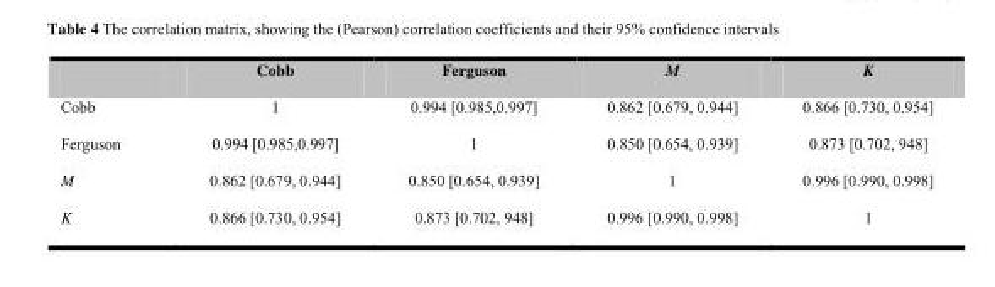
<table><thead><tr><td></td><td>Cobb</td><td>Ferguson</td><td>M</td><td>K</td></tr></thead><tbody><tr><td>Cobb</td><td>1</td><td>0.994 [0.985,0.997]</td><td>0.862 [0.679, 0.944]</td><td>0.866 [0.730, 0.954]</td></tr><tr><td>Ferguson</td><td>0.994 [0.985,0.997]</td><td>1</td><td>0.850 [0.654, 0.939]</td><td>0.873 [0.702, 948]</td></tr><tr><td>M</td><td>0.862 [0.679, 0.944]</td><td>0.850 [0.654, 0.939]</td><td>1</td><td>0.996 [0.990, 0.998]</td></tr><tr><td>K</td><td>0.866 [0.730, 0.954]</td><td>0.873 [0.702, 948]</td><td>0.996 [0.990, 0.998]</td><td>1</td></tr></tbody></table>